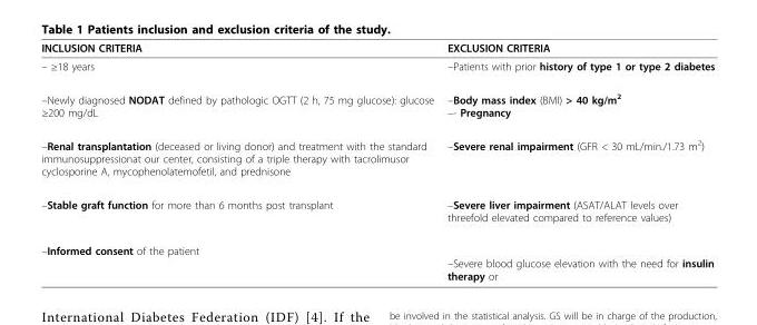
<table><thead><tr><td>INCLUSION CRITERIA</td><td>EXCLUSION CRITERIA</td></tr></thead><tbody><tr><td>– ≥18 years</td><td>–Patients with prior history of type 1 or type 2 diabetes</td></tr><tr><td>–Newly diagnosed NODAT defined by pathologic OGTT (2 h, 75 mg glucose): glucose ≥200 mg/dL</td><td>–Body mass index (BMI) &gt; 40 kg/m2 –- Pregnancy</td></tr><tr><td>–Renal transplantation (deceased or living donor) and treatment with the standard immunosuppressionat our center, consisting of a triple therapy with tacrolimusor cyclosporine A, mycophenolatemofetil, and prednisone</td><td>–Severe renal impairment (GFR &lt; 30 mL/min./1.73 m2)</td></tr><tr><td>–Stable graft function for more than 6 months post transplant</td><td>–Severe liver impairment (ASAT/ALAT levels over threefold elevated compared to reference values)</td></tr><tr><td>–Informed consent of the patient</td><td>–Severe blood glucose elevation with the need for insulin therapy or</td></tr></tbody></table>